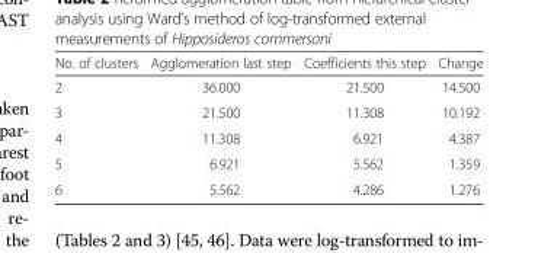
<table><thead><tr><td>No. of clusters</td><td>Agglomeration last step</td><td>Coefficients this step</td><td>Change</td></tr></thead><tbody><tr><td>2</td><td>36.000</td><td>21.500</td><td>14.500</td></tr><tr><td>3</td><td>21.500</td><td>11.308</td><td>10.192</td></tr><tr><td>4</td><td>11.308</td><td>6.921</td><td>4.387</td></tr><tr><td>5</td><td>6.921</td><td>5.562</td><td>1.359</td></tr><tr><td>6</td><td>5.562</td><td>4.286</td><td>1.276</td></tr></tbody></table>